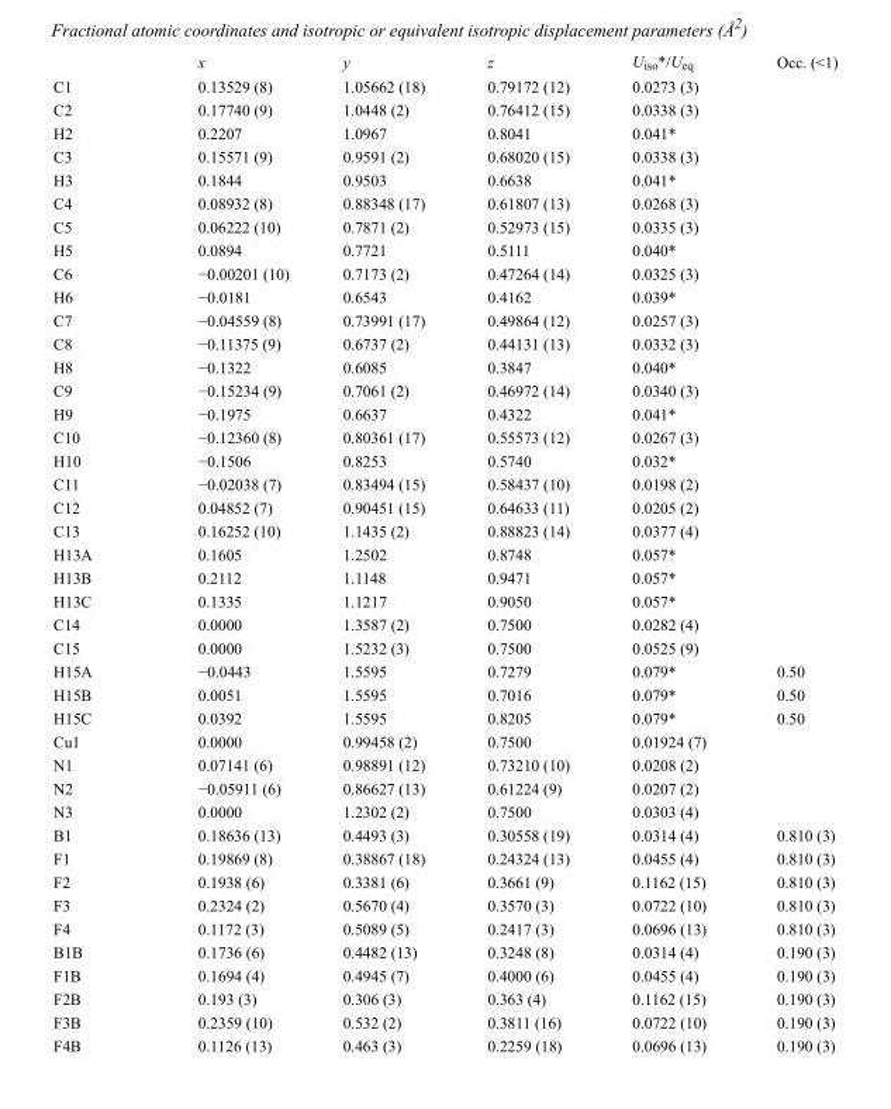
<table><thead><tr><td></td><td>x</td><td>y</td><td>z</td><td>U<sub>iso</sub>*/U<sub>eq</sub></td><td>Occ. (&lt;1)</td></tr></thead><tbody><tr><td>C1</td><td>0.13529 (8)</td><td>1.05662 (18)</td><td>0.79172 (12)</td><td>0.0273 (3)</td><td></td></tr><tr><td>C2</td><td>0.17740 (9)</td><td>1.0448 (2)</td><td>0.76412 (15)</td><td>0.0338 (3)</td><td></td></tr><tr><td>H2</td><td>0.2207</td><td>1.0967</td><td>0.8041</td><td>0.041*</td><td></td></tr><tr><td>C3</td><td>0.15571 (9)</td><td>0.9591 (2)</td><td>0.68020 (15)</td><td>0.0338 (3)</td><td></td></tr><tr><td>H3</td><td>0.1844</td><td>0.9503</td><td>0.6638</td><td>0.041*</td><td></td></tr><tr><td>C4</td><td>0.08932 (8)</td><td>0.88348 (17)</td><td>0.61807 (13)</td><td>0.0268 (3)</td><td></td></tr><tr><td>C5</td><td>0.06222 (10)</td><td>0.7871 (2)</td><td>0.52973 (15)</td><td>0.0335 (3)</td><td></td></tr><tr><td>H5</td><td>0.0894</td><td>0.7721</td><td>0.5111</td><td>0.040*</td><td></td></tr><tr><td>C6</td><td>−0.00201 (10)</td><td>0.7173 (2)</td><td>0.47264 (14)</td><td>0.0325 (3)</td><td></td></tr><tr><td>H6</td><td>−0.0181</td><td>0.6543</td><td>0.4162</td><td>0.039*</td><td></td></tr><tr><td>C7</td><td>−0.04559 (8)</td><td>0.73991 (17)</td><td>0.49864 (12)</td><td>0.0257 (3)</td><td></td></tr><tr><td>C8</td><td>−0.11375 (9)</td><td>0.6737 (2)</td><td>0.44131 (13)</td><td>0.0332 (3)</td><td></td></tr><tr><td>H8</td><td>−0.1322</td><td>0.6085</td><td>0.3847</td><td>0.040*</td><td></td></tr><tr><td>C9</td><td>−0.15234 (9)</td><td>0.7061 (2)</td><td>0.46972 (14)</td><td>0.0340 (3)</td><td></td></tr><tr><td>H9</td><td>−0.1975</td><td>0.6637</td><td>0.4322</td><td>0.041*</td><td></td></tr><tr><td>C10</td><td>−0.12360 (8)</td><td>0.80361 (17)</td><td>0.55573 (12)</td><td>0.0267 (3)</td><td></td></tr><tr><td>H10</td><td>−0.1506</td><td>0.8253</td><td>0.5740</td><td>0.032*</td><td></td></tr><tr><td>C11</td><td>−0.02038 (7)</td><td>0.83494 (15)</td><td>0.58437 (10)</td><td>0.0198 (2)</td><td></td></tr><tr><td>C12</td><td>0.04852 (7)</td><td>0.90451 (15)</td><td>0.64633 (11)</td><td>0.0205 (2)</td><td></td></tr><tr><td>C13</td><td>0.16252 (10)</td><td>1.1435 (2)</td><td>0.88823 (14)</td><td>0.0377 (4)</td><td></td></tr><tr><td>H13A</td><td>0.1605</td><td>1.2502</td><td>0.8748</td><td>0.057*</td><td></td></tr><tr><td>H13B</td><td>0.2112</td><td>1.1148</td><td>0.9471</td><td>0.057*</td><td></td></tr><tr><td>H13C</td><td>0.1335</td><td>1.1217</td><td>0.9050</td><td>0.057*</td><td></td></tr><tr><td>C14</td><td>0.0000</td><td>1.3587 (2)</td><td>0.7500</td><td>0.0282 (4)</td><td></td></tr><tr><td>C15</td><td>0.0000</td><td>1.5232 (3)</td><td>0.7500</td><td>0.0525 (9)</td><td></td></tr><tr><td>H15A</td><td>−0.0443</td><td>1.5595</td><td>0.7279</td><td>0.079*</td><td>0.50</td></tr><tr><td>H15B</td><td>0.0051</td><td>1.5595</td><td>0.7016</td><td>0.079*</td><td>0.50</td></tr><tr><td>H15C</td><td>0.0392</td><td>1.5595</td><td>0.8205</td><td>0.079*</td><td>0.50</td></tr><tr><td>Cu1</td><td>0.0000</td><td>0.99458 (2)</td><td>0.7500</td><td>0.01924 (7)</td><td></td></tr><tr><td>N1</td><td>0.07141 (6)</td><td>0.98891 (12)</td><td>0.73210 (10)</td><td>0.0208 (2)</td><td></td></tr><tr><td>N2</td><td>−0.05911 (6)</td><td>0.86627 (13)</td><td>0.61224 (9)</td><td>0.0207 (2)</td><td></td></tr><tr><td>N3</td><td>0.0000</td><td>1.2302 (2)</td><td>0.7500</td><td>0.0303 (4)</td><td></td></tr><tr><td>B1</td><td>0.18636 (13)</td><td>0.4493 (3)</td><td>0.30558 (19)</td><td>0.0314 (4)</td><td>0.810 (3)</td></tr><tr><td>F1</td><td>0.19869 (8)</td><td>0.38867 (18)</td><td>0.24324 (13)</td><td>0.0455 (4)</td><td>0.810 (3)</td></tr><tr><td>F2</td><td>0.1938 (6)</td><td>0.3381 (6)</td><td>0.3661 (9)</td><td>0.1162 (15)</td><td>0.810 (3)</td></tr><tr><td>F3</td><td>0.2324 (2)</td><td>0.5670 (4)</td><td>0.3570 (3)</td><td>0.0722 (10)</td><td>0.810 (3)</td></tr><tr><td>F4</td><td>0.1172 (3)</td><td>0.5089 (5)</td><td>0.2417 (3)</td><td>0.0696 (13)</td><td>0.810 (3)</td></tr><tr><td>B1B</td><td>0.1736 (6)</td><td>0.4482 (13)</td><td>0.3248 (8)</td><td>0.0314 (4)</td><td>0.190 (3)</td></tr><tr><td>F1B</td><td>0.1694 (4)</td><td>0.4945 (7)</td><td>0.4000 (6)</td><td>0.0455 (4)</td><td>0.190 (3)</td></tr><tr><td>F2B</td><td>0.193 (3)</td><td>0.306 (3)</td><td>0.363 (4)</td><td>0.1162 (15)</td><td>0.190 (3)</td></tr><tr><td>F3B</td><td>0.2359 (10)</td><td>0.532 (2)</td><td>0.3811 (16)</td><td>0.0722 (10)</td><td>0.190 (3)</td></tr><tr><td>F4B</td><td>0.1126 (13)</td><td>0.463 (3)</td><td>0.2259 (18)</td><td>0.0696 (13)</td><td>0.190 (3)</td></tr></tbody></table>